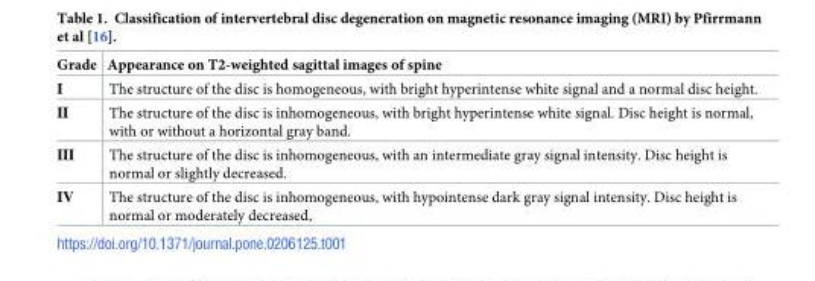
<table><thead><tr><td>Grade</td><td>Appearance on T2-weighted sagittal images of spine</td></tr></thead><tbody><tr><td>Ⅰ</td><td>The structure of the disc is homogeneous, with bright hyperintense white signal and a normal disc height.</td></tr><tr><td>Ⅱ</td><td>The structure of the disc is inhomogeneous, with bright hyperintense white signal. Disc height is normal, with or without a horizontal gray band.</td></tr><tr><td>Ⅲ</td><td>The structure of the disc is inhomogeneous, with an intermediate gray signal intensity. Disc height is normal or slightly decreased.</td></tr><tr><td>Ⅳ</td><td>The structure of the disc is inhomogeneous, with hypointense dark gray signal intensity. Disc height is normal or moderately decreased,</td></tr></tbody></table>